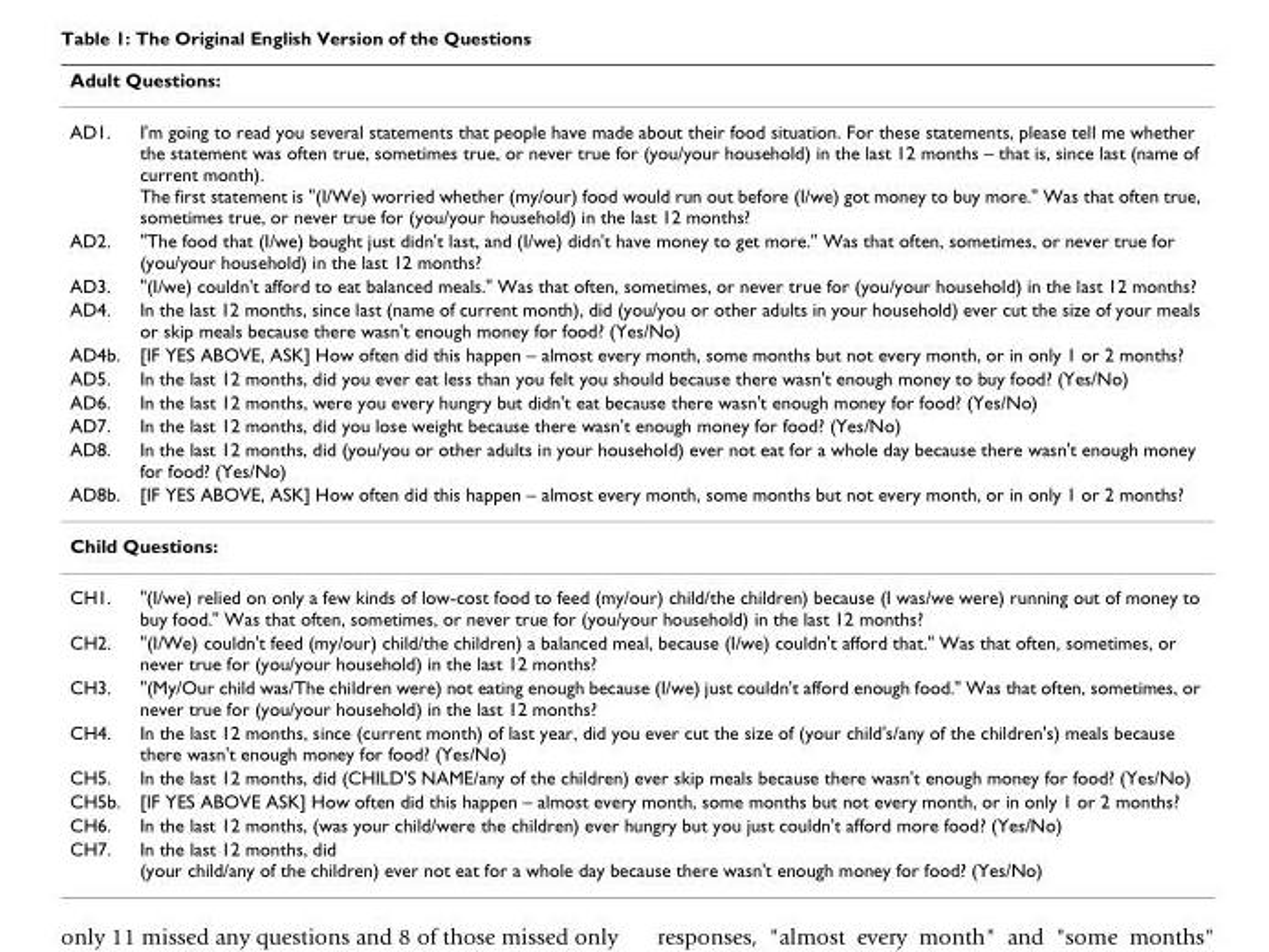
<table><thead><tr><td colspan="2">Adult Questions:</td></tr><tr><td>AD1.</td><td>I&#x27;m going to read you several statements that people have made about their food situation. For these statements, please tell me whether the statement was often true, sometimes true, or never true for (you/your household) in the last 12 months – that is, since last (name of current month). The first statement is &quot;(I/We) worried whether (my/our) food would run out before (I/we) got money to buy more.&quot; Was that often true, sometimes true, or never true for (you/your household) in the last 12 months?</td></tr></thead><tbody><tr><td>AD2.</td><td>&quot;The food that (I/we) bought just didn&#x27;t last, and (I/we) didn&#x27;t have money to get more.&quot; Was that often, sometimes, or never true for (you/your household) in the last 12 months?</td></tr><tr><td>AD3.</td><td>&quot;(I/we) couldn&#x27;t afford to eat balanced meals.&quot; Was that often, sometimes, or never true for (you/your household) in the last 12 months?</td></tr><tr><td>AD4.</td><td>In the last 12 months, since last (name of current month), did (you/you or other adults in your household) ever cut the size of your meals or skip meals because there wasn&#x27;t enough money for food? (Yes/No)</td></tr><tr><td>AD4b.</td><td>[IF YES ABOVE, ASK] How often did this happen – almost every month, some months but not every month, or in only 1 or 2 months?</td></tr><tr><td>AD5.</td><td>In the last 12 months, did you ever eat less than you felt you should because there wasn&#x27;t enough money to buy food? (Yes/No)</td></tr><tr><td>AD6.</td><td>In the last 12 months, were you every hungry but didn&#x27;t eat because there wasn&#x27;t enough money for food? (Yes/No)</td></tr><tr><td>AD7.</td><td>In the last 12 months, did you lose weight because there wasn&#x27;t enough money for food? (Yes/No)</td></tr><tr><td>AD8.</td><td>In the last 12 months, did (you/you or other adults in your household) ever not eat for a whole day because there wasn&#x27;t enough money for food? (Yes/No)</td></tr><tr><td>AD8b.</td><td>[IF YES ABOVE, ASK] How often did this happen – almost every month, some months but not every month, or in only 1 or 2 months?</td></tr><tr><td colspan="2">Child Questions:</td></tr><tr><td>CH1.</td><td>&quot;(I/we) relied on only a few kinds of low-cost food to feed (my/our) child/the children) because (I was/we were) running out of money to buy food.&quot; Was that often, sometimes, or never true for (you/your household) in the last 12 months?</td></tr><tr><td>CH2.</td><td>&quot;(I/We) couldn&#x27;t feed (my/our) child/the children) a balanced meal, because (I/we) couldn&#x27;t afford that.&quot; Was that often, sometimes, or never true for (you/your household) in the last 12 months?</td></tr><tr><td>CH3.</td><td>&quot;(My/Our child was/The children were) not eating enough because (I/we) just couldn&#x27;t afford enough food.&quot; Was that often, sometimes, or never true for (you/your household) in the last 12 months?</td></tr><tr><td>CH4.</td><td>In the last 12 months, since (current month) of last year, did you ever cut the size of (your child&#x27;s/any of the children&#x27;s) meals because there wasn&#x27;t enough money for food? (Yes/No)</td></tr><tr><td>CH5.</td><td>In the last 12 months, did (CHILD&#x27;S NAME/any of the children) ever skip meals because there wasn&#x27;t enough money for food? (Yes/No)</td></tr><tr><td>CH5b.</td><td>[IF YES ABOVE ASK] How often did this happen – almost every month, some months but not every month, or in only 1 or 2 months?</td></tr><tr><td>CH6.</td><td>In the last 12 months, (was your child/were the children) ever hungry but you just couldn&#x27;t afford more food? (Yes/No)</td></tr><tr><td>CH7.</td><td>In the last 12 months, did (your child/any of the children) ever not eat for a whole day because there wasn&#x27;t enough money for food? (Yes/No)</td></tr></tbody></table>